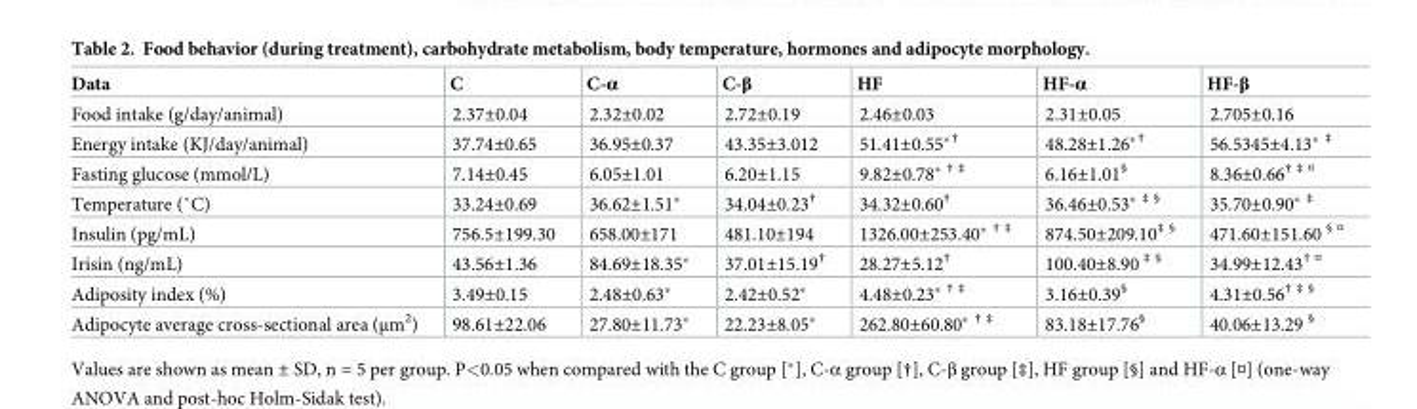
<table><thead><tr><td>Data</td><td>C</td><td>C-α</td><td>C-β</td><td>HF</td><td>HF-α</td><td>HF-β</td></tr></thead><tbody><tr><td>Food intake (g/day/animal)</td><td>2.37±0.04</td><td>2.32±0.02</td><td>2.72±0.19</td><td>2.46±0.03</td><td>2.31±0.05</td><td>2.705±0.16</td></tr><tr><td>Energy intake (KJ/day/animal)</td><td>37.74±0.65</td><td>36.95±0.37</td><td>43.35±3.012</td><td>51.41±0.55*<sup>†</sup></td><td>48.28±1.26*<sup>†</sup></td><td>56.5345±4.13* <sup>‡</sup></td></tr><tr><td>Fasting glucose (mmol/L)</td><td>7.14±0.45</td><td>6.05±1.01</td><td>6.20±1.15</td><td>9.82±0.78* <sup>† ‡</sup></td><td>6.16±1.01<sup>§</sup></td><td>8.36±0.66<sup>† ‡ ¤</sup></td></tr><tr><td>Temperature (˚C)</td><td>33.24±0.69</td><td>36.62±1.51*</td><td>34.04±0.23<sup>†</sup></td><td>34.32±0.60<sup>†</sup></td><td>36.46±0.53* <sup>‡ §</sup></td><td>35.70±0.90* <sup>‡</sup></td></tr><tr><td>Insulin (pg/mL)</td><td>756.5±199.30</td><td>658.00±171</td><td>481.10±194</td><td>1326.00±253.40* <sup>† ‡</sup></td><td>874.50±209.10<sup>‡ §</sup></td><td>471.60±151.60 <sup>§ ¤</sup></td></tr><tr><td>Irisin (ng/mL)</td><td>43.56±1.36</td><td>84.69±18.35*</td><td>37.01±15.19<sup>†</sup></td><td>28.27±5.12<sup>†</sup></td><td>100.40±8.90 <sup>‡ §</sup></td><td>34.99±12.43<sup>† ¤</sup></td></tr><tr><td>Adiposity index (%)</td><td>3.49±0.15</td><td>2.48±0.63*</td><td>2.42±0.52*</td><td>4.48±0.23* <sup>† ‡</sup></td><td>3.16±0.39<sup>§</sup></td><td>4.31±0.56<sup>† ‡ §</sup></td></tr><tr><td>Adipocyte average cross-sectional area (μm<sup>2</sup>)</td><td>98.61±22.06</td><td>27.80±11.73*</td><td>22.23±8.05*</td><td>262.80±60.80* <sup>† ‡</sup></td><td>83.18±17.76<sup>§</sup></td><td>40.06±13.29 <sup>§</sup></td></tr></tbody></table>